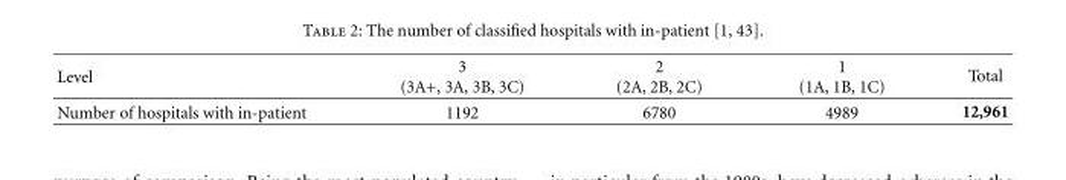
<table><thead><tr><td>Level</td><td>3 (3A+, 3A, 3B, 3C)</td><td>2 (2A, 2B, 2C)</td><td>1 (1A, 1B, 1C)</td><td>Total</td></tr></thead><tbody><tr><td>Number of hospitals with in-patient</td><td>1192</td><td>6780</td><td>4989</td><td>12,961</td></tr></tbody></table>